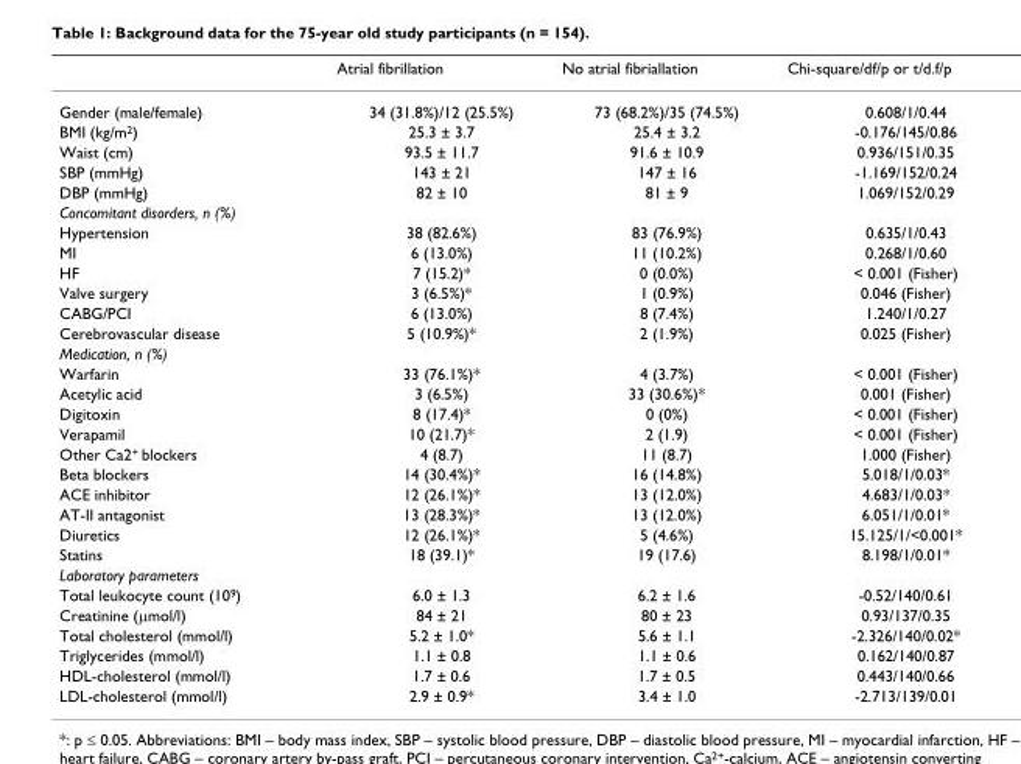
<table><thead><tr><td></td><td>Atrial fibrillation</td><td>No atrial fibriallation</td><td>Chi-square/df/p or t/d.f/p</td></tr></thead><tbody><tr><td>Gender (male/female)</td><td>34 (31.8%)/12 (25.5%)</td><td>73 (68.2%)/35 (74.5%)</td><td>0.608/1/0.44</td></tr><tr><td>BMI (kg/m<sup>2</sup>)</td><td>25.3 ± 3.7</td><td>25.4 ± 3.2</td><td>-0.176/145/0.86</td></tr><tr><td>Waist (cm)</td><td>93.5 ± 11.7</td><td>91.6 ± 10.9</td><td>0.936/151/0.35</td></tr><tr><td>SBP (mmHg)</td><td>143 ± 21</td><td>147 ± 16</td><td>-1.169/152/0.24</td></tr><tr><td>DBP (mmHg)</td><td>82 ± 10</td><td>81 ± 9</td><td>1.069/152/0.29</td></tr><tr><td colspan="4">Concomitant disorders, n (%)</td></tr><tr><td>Hypertension</td><td>38 (82.6%)</td><td>83 (76.9%)</td><td>0.635/1/0.43</td></tr><tr><td>MI</td><td>6 (13.0%)</td><td>11 (10.2%)</td><td>0.268/1/0.60</td></tr><tr><td>HF</td><td>7 (15.2)*</td><td>0 (0.0%)</td><td>&lt; 0.001 (Fisher)</td></tr><tr><td>Valve surgery</td><td>3 (6.5%)*</td><td>1 (0.9%)</td><td>0.046 (Fisher)</td></tr><tr><td>CABG/PCI</td><td>6 (13.0%)</td><td>8 (7.4%)</td><td>1.240/1/0.27</td></tr><tr><td>Cerebrovascular disease</td><td>5 (10.9%)*</td><td>2 (1.9%)</td><td>0.025 (Fisher)</td></tr><tr><td colspan="4">Medication, n (%)</td></tr><tr><td>Warfarin</td><td>33 (76.1%)*</td><td>4 (3.7%)</td><td>&lt; 0.001 (Fisher)</td></tr><tr><td>Acetylic acid</td><td>3 (6.5%)</td><td>33 (30.6%)*</td><td>0.001 (Fisher)</td></tr><tr><td>Digitoxin</td><td>8 (17.4)*</td><td>0 (0%)</td><td>&lt; 0.001 (Fisher)</td></tr><tr><td>Verapamil</td><td>10 (21.7)*</td><td>2 (1.9)</td><td>&lt; 0.001 (Fisher)</td></tr><tr><td>Other Ca2<sup>+</sup> blockers</td><td>4 (8.7)</td><td>11 (8.7)</td><td>1.000 (Fisher)</td></tr><tr><td>Beta blockers</td><td>14 (30.4%)*</td><td>16 (14.8%)</td><td>5.018/1/0.03*</td></tr><tr><td>ACE inhibitor</td><td>12 (26.1%)*</td><td>13 (12.0%)</td><td>4.683/1/0.03*</td></tr><tr><td>AT-II antagonist</td><td>13 (28.3%)*</td><td>13 (12.0%)</td><td>6.051/1/0.01*</td></tr><tr><td>Diuretics</td><td>12 (26.1%)*</td><td>5 (4.6%)</td><td>15.125/1/&lt;0.001*</td></tr><tr><td>Statins</td><td>18 (39.1)*</td><td>19 (17.6)</td><td>8.198/1/0.01*</td></tr><tr><td colspan="4">Laboratory parameters</td></tr><tr><td>Total leukocyte count (10<sup>9</sup>)</td><td>6.0 ± 1.3</td><td>6.2 ± 1.6</td><td>-0.52/140/0.61</td></tr><tr><td>Creatinine (μmol/l)</td><td>84 ± 21</td><td>80 ± 23</td><td>0.93/137/0.35</td></tr><tr><td>Total cholesterol (mmol/l)</td><td>5.2 ± 1.0*</td><td>5.6 ± 1.1</td><td>-2.326/140/0.02*</td></tr><tr><td>Triglycerides (mmol/l)</td><td>1.1 ± 0.8</td><td>1.1 ± 0.6</td><td>0.162/140/0.87</td></tr><tr><td>HDL-cholesterol (mmol/l)</td><td>1.7 ± 0.6</td><td>1.7 ± 0.5</td><td>0.443/140/0.66</td></tr><tr><td>LDL-cholesterol (mmol/l)</td><td>2.9 ± 0.9*</td><td>3.4 ± 1.0</td><td>-2.713/139/0.01</td></tr></tbody></table>